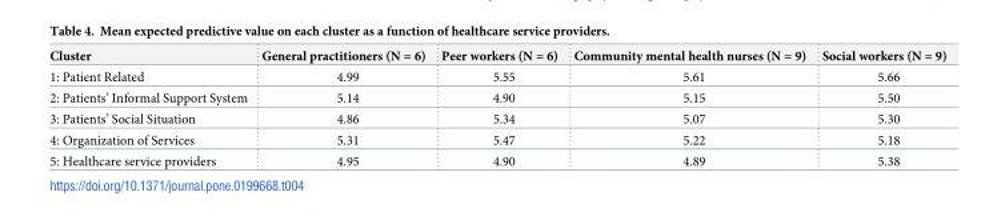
<table><thead><tr><td>Cluster</td><td>General practitioners (N = 6)</td><td>Peer workers (N = 6)</td><td>Community mental health nurses (N = 9)</td><td>Social workers (N = 9)</td></tr></thead><tbody><tr><td>1: Patient Related</td><td>4.99</td><td>5.55</td><td>5.61</td><td>5.66</td></tr><tr><td>2: Patients’ Informal Support System</td><td>5.14</td><td>4.90</td><td>5.15</td><td>5.50</td></tr><tr><td>3: Patients’ Social Situation</td><td>4.86</td><td>5.34</td><td>5.07</td><td>5.30</td></tr><tr><td>4: Organization of Services</td><td>5.31</td><td>5.47</td><td>5.22</td><td>5.18</td></tr><tr><td>5: Healthcare service providers</td><td>4.95</td><td>4.90</td><td>4.89</td><td>5.38</td></tr></tbody></table>